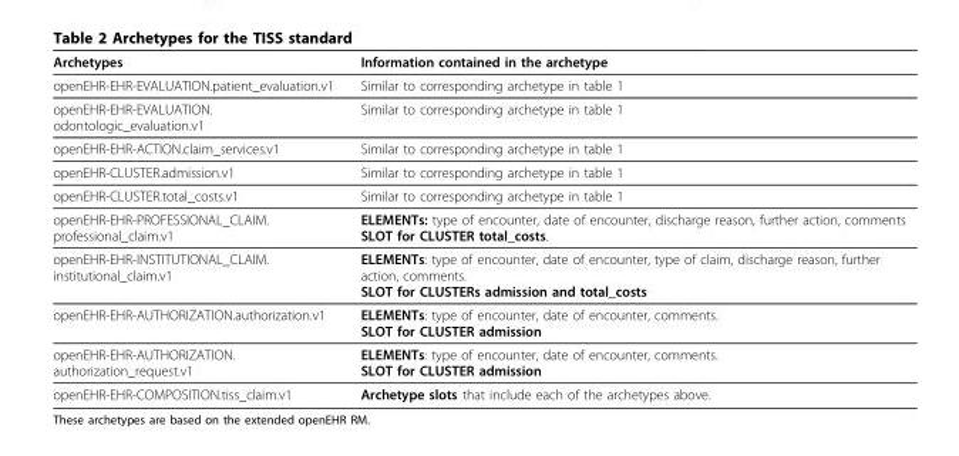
<table><thead><tr><td>Archetypes</td><td>Information contained in the archetype</td></tr></thead><tbody><tr><td>openEHR-EHR-EVALUATION.patient_evaluation.v1</td><td>Similar to corresponding archetype in table 1</td></tr><tr><td>openEHR-EHR-EVALUATION. odontologic_evaluation.v1</td><td>Similar to corresponding archetype in table 1</td></tr><tr><td>openEHR-EHR-ACTION.claim_services.v1</td><td>Similar to corresponding archetype in table 1</td></tr><tr><td>openEHR-CLUSTER.admission.v1</td><td>Similar to corresponding archetype in table 1</td></tr><tr><td>openEHR-CLUSTER.total_costs.v1</td><td>Similar to corresponding archetype in table 1</td></tr><tr><td>openEHR-EHR-PROFESSIONAL_CLAIM. professional_claim.v1</td><td>ELEMENTs: type of encounter, date of encounter, discharge reason, further action, comments SLOT for CLUSTER total_costs.</td></tr><tr><td>openEHR-EHR-INSTITUTIONAL_CLAIM. institutional_claim.v1</td><td>ELEMENTs: type of encounter, date of encounter, type of claim, discharge reason, further action, comments. SLOT for CLUSTERs admission and total_costs</td></tr><tr><td>openEHR-EHR-AUTHORIZATION.authorization.v1</td><td>ELEMENTs: type of encounter, date of encounter, comments. SLOT for CLUSTER admission</td></tr><tr><td>openEHR-EHR-AUTHORIZATION. authorization_request.v1</td><td>ELEMENTs: type of encounter, date of encounter, comments. SLOT for CLUSTER admission</td></tr><tr><td>openEHR-EHR-COMPOSITION.tiss_claim.v1</td><td>Archetype slots that include each of the archetypes above.</td></tr></tbody></table>